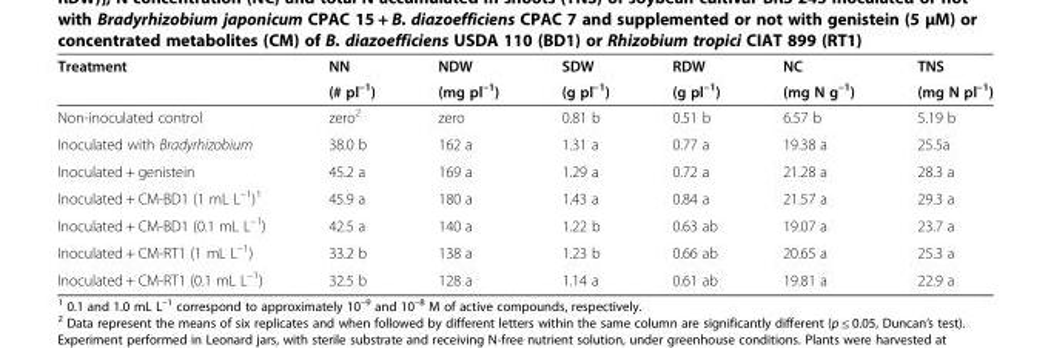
<table><thead><tr><td rowspan="2">Treatment</td><td rowspan="2">NN (# pl<sup>–1</sup>)</td><td rowspan="2">NDW (mg pl<sup>–1</sup>)</td><td rowspan="2">SDW (g pl<sup>–1</sup>)</td><td rowspan="2">RDW (g pl<sup>–1</sup>)</td><td rowspan="2">NC (mg N g<sup>–1</sup>)</td><td rowspan="2">TNS (mg N pl<sup>–1</sup>)</td></tr><tr></tr></thead><tbody><tr><td>Non-inoculated control</td><td>zero<sup>2</sup></td><td>zero</td><td>0.81 b</td><td>0.51 b</td><td>6.57 b</td><td>5.19 b</td></tr><tr><td>Inoculated with Bradyrhizobium</td><td>38.0 b</td><td>162 a</td><td>1.31 a</td><td>0.77 a</td><td>19.38 a</td><td>25.5a</td></tr><tr><td>Inoculated + genistein</td><td>45.2 a</td><td>169 a</td><td>1.29 a</td><td>0.72 a</td><td>21.28 a</td><td>28.3 a</td></tr><tr><td>Inoculated + CM-BD1 (1 mL L<sup>–1</sup>)<sup>1</sup></td><td>45.9 a</td><td>180 a</td><td>1.43 a</td><td>0.84 a</td><td>21.57 a</td><td>29.3 a</td></tr><tr><td>Inoculated + CM-BD1 (0.1 mL L<sup>–1</sup>)</td><td>42.5 a</td><td>140 a</td><td>1.22 b</td><td>0.63 ab</td><td>19.07 a</td><td>23.7 a</td></tr><tr><td>Inoculated + CM-RT1 (1 mL L<sup>–1</sup>)</td><td>33.2 b</td><td>138 a</td><td>1.23 b</td><td>0.66 ab</td><td>20.65 a</td><td>25.3 a</td></tr><tr><td>Inoculated + CM-RT1 (0.1 mL L<sup>–1</sup>)</td><td>32.5 b</td><td>128 a</td><td>1.14 a</td><td>0.61 ab</td><td>19.81 a</td><td>22.9 a</td></tr></tbody></table>